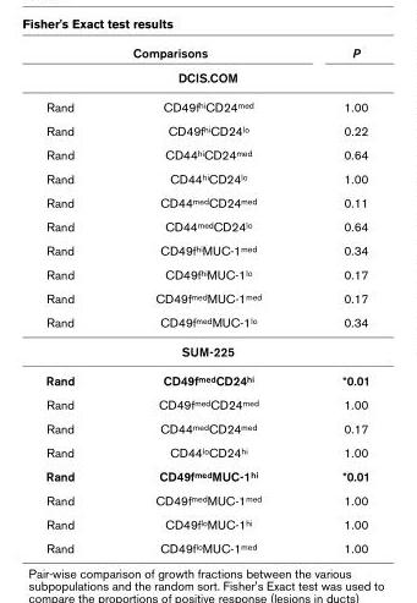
<table><thead><tr><td colspan="2">Comparisons</td><td>P</td></tr><tr><td colspan="3">DCIS.COM</td></tr><tr><td>Rand</td><td>CD49f<sup>hi</sup>CD24<sup>med</sup></td><td>1.00</td></tr></thead><tbody><tr><td>Rand</td><td>CD49f<sup>hi</sup>CD24<sup>lo</sup></td><td>0.22</td></tr><tr><td>Rand</td><td>CD44<sup>hi</sup>CD24<sup>med</sup></td><td>0.64</td></tr><tr><td>Rand</td><td>CD44<sup>hi</sup>CD24<sup>lo</sup></td><td>1.00</td></tr><tr><td>Rand</td><td>CD44<sup>med</sup>CD24<sup>med</sup></td><td>0.11</td></tr><tr><td>Rand</td><td>CD44<sup>med</sup>CD24<sup>lo</sup></td><td>0.64</td></tr><tr><td>Rand</td><td>CD49f<sup>hi</sup>MUC-1<sup>med</sup></td><td>0.34</td></tr><tr><td>Rand</td><td>CD49f<sup>hi</sup>MUC-1<sup>lo</sup></td><td>0.17</td></tr><tr><td>Rand</td><td>CD49f<sup>med</sup>MUC-1<sup>med</sup></td><td>0.17</td></tr><tr><td>Rand</td><td>CD49f<sup>med</sup>MUC-1<sup>lo</sup></td><td>0.34</td></tr><tr><td colspan="3">SUM-225</td></tr><tr><td>Rand</td><td>CD49f<sup>med</sup>CD24<sup>hi</sup></td><td>*0.01</td></tr><tr><td>Rand</td><td>CD49f<sup>med</sup>CD24<sup>med</sup></td><td>1.00</td></tr><tr><td>Rand</td><td>CD44<sup>med</sup>CD24<sup>med</sup></td><td>0.17</td></tr><tr><td>Rand</td><td>CD44<sup>lo</sup>CD24<sup>hi</sup></td><td>1.00</td></tr><tr><td>Rand</td><td>CD49f<sup>med</sup>MUC-1<sup>hi</sup></td><td>*0.01</td></tr><tr><td>Rand</td><td>CD49f<sup>med</sup>MUC-1<sup>med</sup></td><td>1.00</td></tr><tr><td>Rand</td><td>CD49f<sup>lo</sup>MUC-1<sup>hi</sup></td><td>1.00</td></tr><tr><td>Rand</td><td>CD49f<sup>lo</sup>MUC-1<sup>med</sup></td><td>1.00</td></tr></tbody></table>